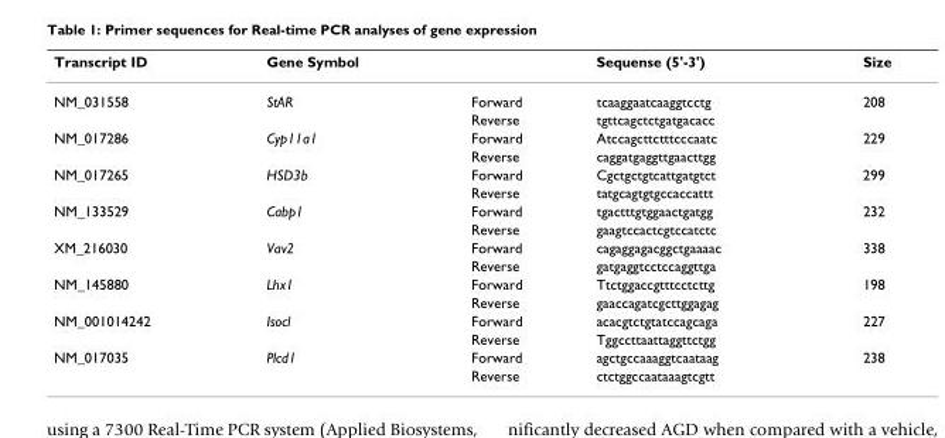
<table><thead><tr><td>Transcript ID</td><td>Gene Symbol</td><td></td><td>Sequense (5&#x27;-3&#x27;)</td><td>Size</td></tr></thead><tbody><tr><td rowspan="2">NM_031558</td><td>StAR</td><td>Forward</td><td>tcaaggaatcaaggtcctg</td><td>208</td></tr><tr><td></td><td>Reverse</td><td>tgttcagctctgatgacacc</td><td></td></tr><tr><td rowspan="2">NM_017286</td><td>Cyp11a1</td><td>Forward</td><td>Atccagcttctttcccaatc</td><td>229</td></tr><tr><td></td><td>Reverse</td><td>caggatgaggttgaacttgg</td><td></td></tr><tr><td rowspan="2">NM_017265</td><td>HSD3b</td><td>Forward</td><td>Cgctgctgtcattgatgtct</td><td>299</td></tr><tr><td></td><td>Reverse</td><td>tatgcagtgtgccaccattt</td><td></td></tr><tr><td rowspan="2">NM_133529</td><td>Cabp1</td><td>Forward</td><td>tgactttgtggaactgatgg</td><td>232</td></tr><tr><td></td><td>Reverse</td><td>gaagtccactcgtccatctc</td><td></td></tr><tr><td rowspan="2">XM_216030</td><td>Vav2</td><td>Forward</td><td>cagaggagacggctgaaaac</td><td>338</td></tr><tr><td></td><td>Reverse</td><td>gatgaggtcctccaggttga</td><td></td></tr><tr><td rowspan="2">NM_145880</td><td>Lhx1</td><td>Forward</td><td>Ttctggaccgtttcctcttg</td><td>198</td></tr><tr><td></td><td>Reverse</td><td>gaaccagatcgcttggagag</td><td></td></tr><tr><td rowspan="2">NM_001014242</td><td>Isocl</td><td>Forward</td><td>acacgtctgtatccagcaga</td><td>227</td></tr><tr><td></td><td>Reverse</td><td>Tggccttaattaggttctgg</td><td></td></tr><tr><td rowspan="2">NM_017035</td><td>Plcd1</td><td>Forward</td><td>agctgccaaaggtcaataag</td><td>238</td></tr><tr><td></td><td>Reverse</td><td>ctctggccaataaagtcgtt</td><td></td></tr></tbody></table>